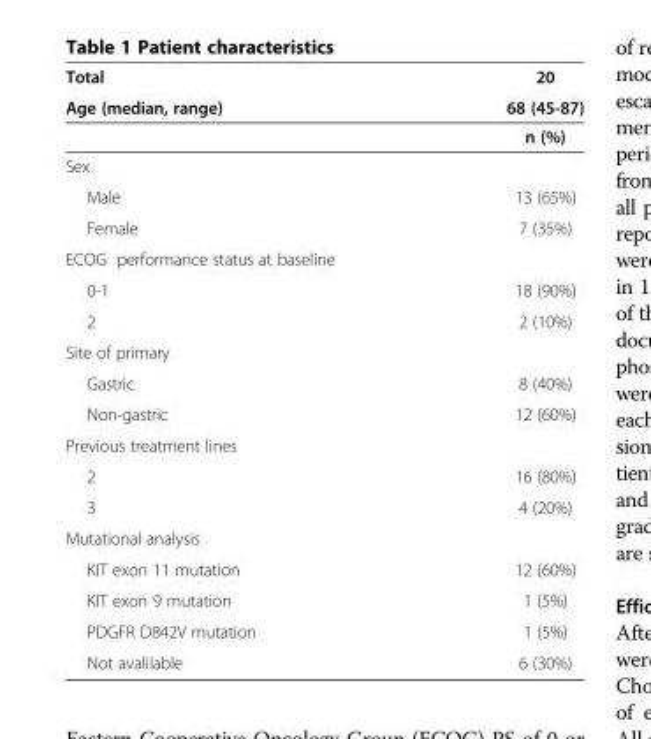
<table><thead><tr><td rowspan="3">Total Age (median, range)</td><td rowspan="3">20 68 (45-87) n (%)</td></tr><tr></tr><tr></tr></thead><tbody><tr><td colspan="2">Sex</td></tr><tr><td>Male</td><td>13 (65%)</td></tr><tr><td>Female</td><td>7 (35%)</td></tr><tr><td colspan="2">ECOG performance status at baseline</td></tr><tr><td>0-1</td><td>18 (90%)</td></tr><tr><td>2</td><td>2 (10%)</td></tr><tr><td colspan="2">Site of primary</td></tr><tr><td>Gastric</td><td>8 (40%)</td></tr><tr><td>Non-gastric</td><td>12 (60%)</td></tr><tr><td colspan="2">Previous treatment lines</td></tr><tr><td>2</td><td>16 (80%)</td></tr><tr><td>3</td><td>4 (20%)</td></tr><tr><td colspan="2">Mutational analysis</td></tr><tr><td>KIT exon 11 mutation</td><td>12 (60%)</td></tr><tr><td>KIT exon 9 mutation</td><td>1 (5%)</td></tr><tr><td>PDGFR D842V mutation</td><td>1 (5%)</td></tr><tr><td>Not avalilable</td><td>6 (30%)</td></tr></tbody></table>